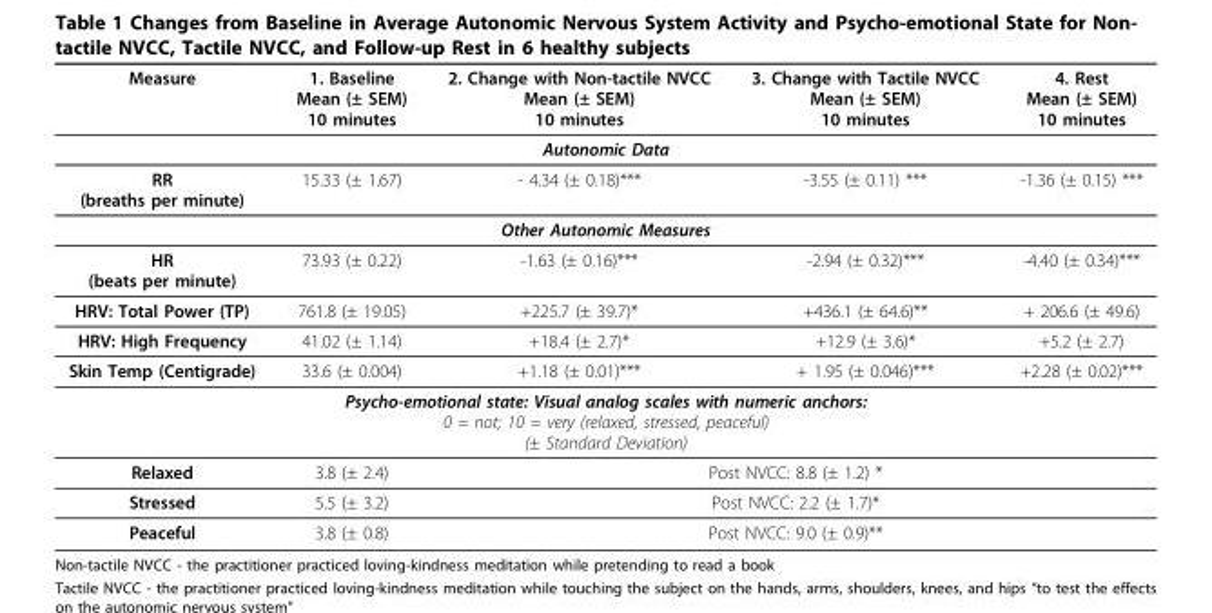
<table><thead><tr><td>Measure</td><td>1. Baseline Mean (± SEM) 10 minutes</td><td>2. Change with Non-tactile NVCC Mean (± SEM) 10 minutes</td><td>3. Change with Tactile NVCC Mean (± SEM) 10 minutes</td><td>4. Rest Mean (± SEM) 10 minutes</td></tr></thead><tbody><tr><td colspan="5">Autonomic Data</td></tr><tr><td>RR (breaths per minute)</td><td>15.33 (± 1.67)</td><td>- 4.34 (± 0.18)***</td><td>-3.55 (± 0.11) ***</td><td>-1.36 (± 0.15) ***</td></tr><tr><td colspan="5">Other Autonomic Measures</td></tr><tr><td>HR (beats per minute)</td><td>73.93 (± 0.22)</td><td>-1.63 (± 0.16)***</td><td>-2.94 (± 0.32)***</td><td>-4.40 (± 0.34)***</td></tr><tr><td>HRV: Total Power (TP)</td><td>761.8 (± 19.05)</td><td>+225.7 (± 39.7)*</td><td>+436.1 (± 64.6)**</td><td>+ 206.6 (± 49.6)</td></tr><tr><td>HRV: High Frequency</td><td>41.02 (± 1.14)</td><td>+18.4 (± 2.7)*</td><td>+12.9 (± 3.6)*</td><td>+5.2 (± 2.7)</td></tr><tr><td>Skin Temp (Centigrade)</td><td>33.6 (± 0.004)</td><td>+1.18 (± 0.01)***</td><td>+ 1.95 (± 0.046)***</td><td>+2.28 (± 0.02)***</td></tr><tr><td colspan="5">Psycho-emotional state: Visual analog scales with numeric anchors: 0 = not; 10 = very (relaxed, stressed, peaceful) (± Standard Deviation)</td></tr><tr><td>Relaxed</td><td>3.8 (± 2.4)</td><td colspan="3">Post NVCC: 8.8 (± 1.2) *</td></tr><tr><td>Stressed</td><td>5.5 (± 3.2)</td><td colspan="3">Post NVCC: 2.2 (± 1.7)*</td></tr><tr><td>Peaceful</td><td>3.8 (± 0.8)</td><td colspan="3">Post NVCC: 9.0 (± 0.9)**</td></tr></tbody></table>